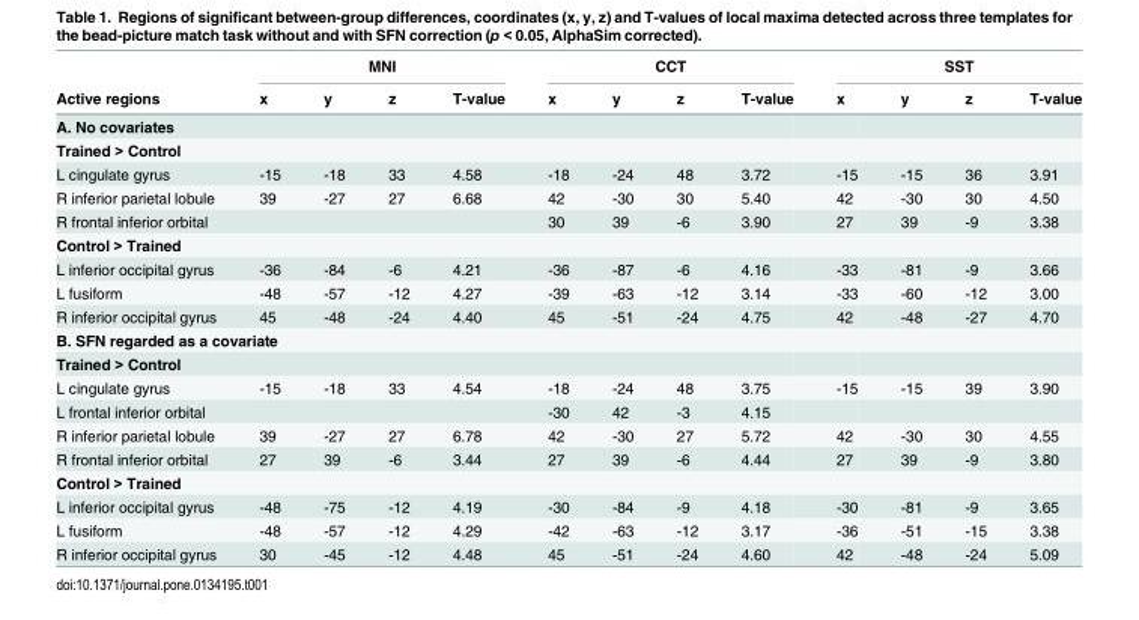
<table><thead><tr><td rowspan="2">Active regions</td><td colspan="4">MNI</td><td colspan="4">CCT</td><td colspan="4">SST</td></tr><tr><td>x</td><td>y</td><td>z</td><td>T-value</td><td>x</td><td>y</td><td>z</td><td>T-value</td><td>x</td><td>y</td><td>z</td><td>T-value</td></tr></thead><tbody><tr><td colspan="13">A. No covariates</td></tr><tr><td colspan="13">Trained &gt; Control</td></tr><tr><td>L cingulate gyrus</td><td>-15</td><td>-18</td><td>33</td><td>4.58</td><td>-18</td><td>-24</td><td>48</td><td>3.72</td><td>-15</td><td>-15</td><td>36</td><td>3.91</td></tr><tr><td>R inferior parietal lobule</td><td>39</td><td>-27</td><td>27</td><td>6.68</td><td>42</td><td>-30</td><td>30</td><td>5.40</td><td>42</td><td>-30</td><td>30</td><td>4.50</td></tr><tr><td>R frontal inferior orbital</td><td></td><td></td><td></td><td></td><td>30</td><td>39</td><td>-6</td><td>3.90</td><td>27</td><td>39</td><td>-9</td><td>3.38</td></tr><tr><td colspan="13">Control &gt; Trained</td></tr><tr><td>L inferior occipital gyrus</td><td>-36</td><td>-84</td><td>-6</td><td>4.21</td><td>-36</td><td>-87</td><td>-6</td><td>4.16</td><td>-33</td><td>-81</td><td>-9</td><td>3.66</td></tr><tr><td>L fusiform</td><td>-48</td><td>-57</td><td>-12</td><td>4.27</td><td>-39</td><td>-63</td><td>-12</td><td>3.14</td><td>-33</td><td>-60</td><td>-12</td><td>3.00</td></tr><tr><td>R inferior occipital gyrus</td><td>45</td><td>-48</td><td>-24</td><td>4.40</td><td>45</td><td>-51</td><td>-24</td><td>4.75</td><td>42</td><td>-48</td><td>-27</td><td>4.70</td></tr><tr><td colspan="13">B. SFN regarded as a covariate</td></tr><tr><td colspan="13">Trained &gt; Control</td></tr><tr><td>L cingulate gyrus</td><td>-15</td><td>-18</td><td>33</td><td>4.54</td><td>-18</td><td>-24</td><td>48</td><td>3.75</td><td>-15</td><td>-15</td><td>39</td><td>3.90</td></tr><tr><td>L frontal inferior orbital</td><td></td><td></td><td></td><td></td><td>-30</td><td>42</td><td>-3</td><td>4.15</td><td></td><td></td><td></td><td></td></tr><tr><td>R inferior parietal lobule</td><td>39</td><td>-27</td><td>27</td><td>6.78</td><td>42</td><td>-30</td><td>27</td><td>5.72</td><td>42</td><td>-30</td><td>30</td><td>4.55</td></tr><tr><td>R frontal inferior orbital</td><td>27</td><td>39</td><td>-6</td><td>3.44</td><td>27</td><td>39</td><td>-6</td><td>4.44</td><td>27</td><td>39</td><td>-9</td><td>3.80</td></tr><tr><td colspan="13">Control &gt; Trained</td></tr><tr><td>L inferior occipital gyrus</td><td>-48</td><td>-75</td><td>-12</td><td>4.19</td><td>-30</td><td>-84</td><td>-9</td><td>4.18</td><td>-30</td><td>-81</td><td>-9</td><td>3.65</td></tr><tr><td>L fusiform</td><td>-48</td><td>-57</td><td>-12</td><td>4.29</td><td>-42</td><td>-63</td><td>-12</td><td>3.17</td><td>-36</td><td>-51</td><td>-15</td><td>3.38</td></tr><tr><td>R inferior occipital gyrus</td><td>30</td><td>-45</td><td>-12</td><td>4.48</td><td>45</td><td>-51</td><td>-24</td><td>4.60</td><td>42</td><td>-48</td><td>-24</td><td>5.09</td></tr></tbody></table>